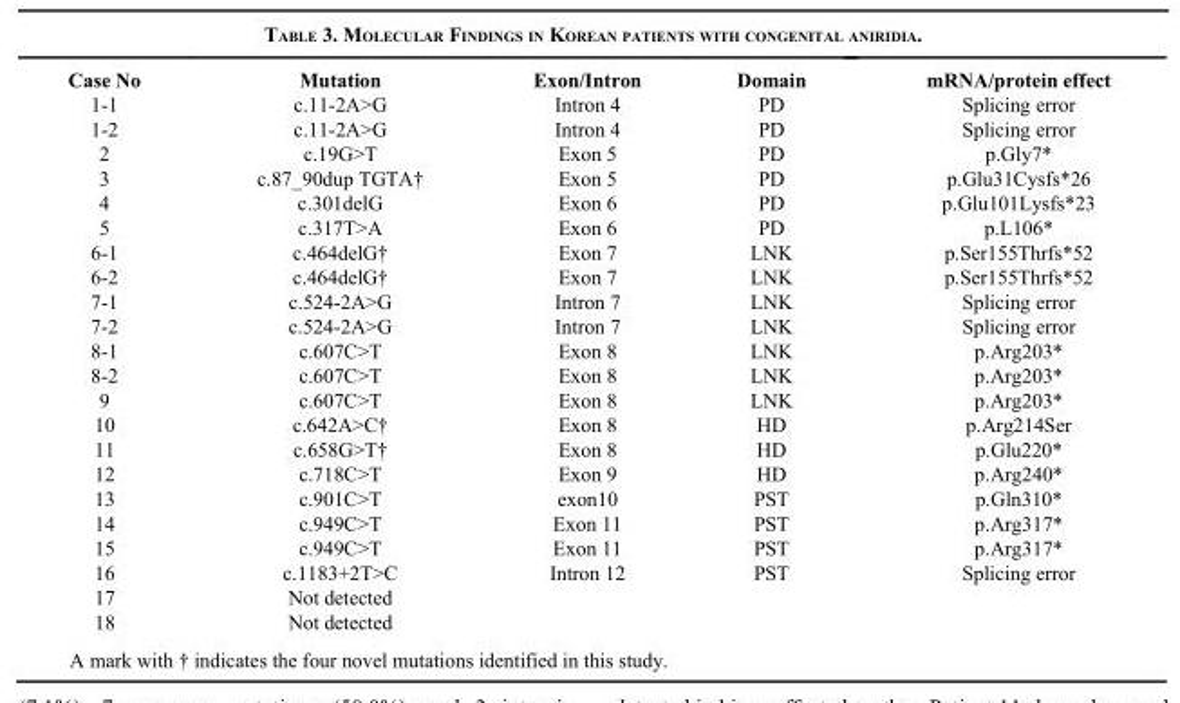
<table><thead><tr><td>Case No</td><td>Mutation</td><td>Exon/Intron</td><td>Domain</td><td>mRNA/protein effect</td></tr></thead><tbody><tr><td>1-1</td><td>c.11-2A&gt;G</td><td>Intron 4</td><td>PD</td><td>Splicing error</td></tr><tr><td>1-2</td><td>c.11-2A&gt;G</td><td>Intron 4</td><td>PD</td><td>Splicing error</td></tr><tr><td>2</td><td>c.19G&gt;T</td><td>Exon 5</td><td>PD</td><td>p.Gly7*</td></tr><tr><td>3</td><td>c.87_90dup TGTA†</td><td>Exon 5</td><td>PD</td><td>p.Glu31Cysfs*26</td></tr><tr><td>4</td><td>c.301delG</td><td>Exon 6</td><td>PD</td><td>p.Glu101Lysfs*23</td></tr><tr><td>5</td><td>c.317T&gt;A</td><td>Exon 6</td><td>PD</td><td>p.L106*</td></tr><tr><td>6-1</td><td>c.464delG†</td><td>Exon 7</td><td>LNK</td><td>p.Ser155Thrfs*52</td></tr><tr><td>6-2</td><td>c.464delG†</td><td>Exon 7</td><td>LNK</td><td>p.Ser155Thrfs*52</td></tr><tr><td>7-1</td><td>c.524-2A&gt;G</td><td>Intron 7</td><td>LNK</td><td>Splicing error</td></tr><tr><td>7-2</td><td>c.524-2A&gt;G</td><td>Intron 7</td><td>LNK</td><td>Splicing error</td></tr><tr><td>8-1</td><td>c.607C&gt;T</td><td>Exon 8</td><td>LNK</td><td>p.Arg203*</td></tr><tr><td>8-2</td><td>c.607C&gt;T</td><td>Exon 8</td><td>LNK</td><td>p.Arg203*</td></tr><tr><td>9</td><td>c.607C&gt;T</td><td>Exon 8</td><td>LNK</td><td>p.Arg203*</td></tr><tr><td>10</td><td>c.642A&gt;C†</td><td>Exon 8</td><td>HD</td><td>p.Arg214Ser</td></tr><tr><td>11</td><td>c.658G&gt;T†</td><td>Exon 8</td><td>HD</td><td>p.Glu220*</td></tr><tr><td>12</td><td>c.718C&gt;T</td><td>Exon 9</td><td>HD</td><td>p.Arg240*</td></tr><tr><td>13</td><td>c.901C&gt;T</td><td>exon10</td><td>PST</td><td>p.Gln310*</td></tr><tr><td>14</td><td>c.949C&gt;T</td><td>Exon 11</td><td>PST</td><td>p.Arg317*</td></tr><tr><td>15</td><td>c.949C&gt;T</td><td>Exon 11</td><td>PST</td><td>p.Arg317*</td></tr><tr><td>16</td><td>c.1183+2T&gt;C</td><td>Intron 12</td><td>PST</td><td>Splicing error</td></tr><tr><td>17</td><td>Not detected</td><td></td><td></td><td></td></tr><tr><td>18</td><td>Not detected</td><td></td><td></td><td></td></tr></tbody></table>